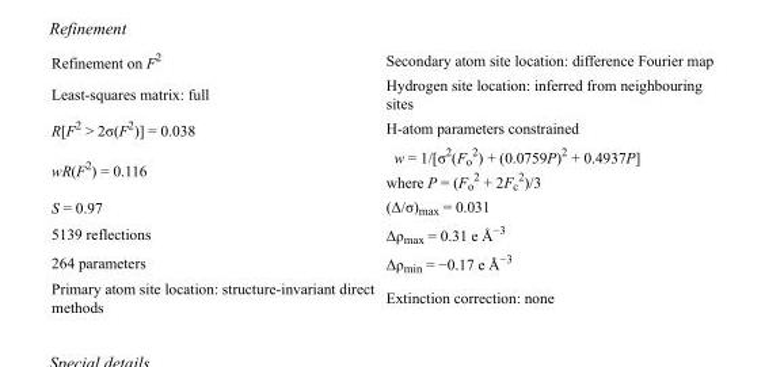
<table><tbody><tr><td>Refinement on F<sup>2</sup></td><td>Secondary atom site location: difference Fourier map</td></tr><tr><td>Least-squares matrix: full</td><td>Hydrogen site location: inferred from neighbouring sites</td></tr><tr><td>R[F<sup>2</sup> &gt; 2σ(F<sup>2</sup>)] = 0.038</td><td>H-atom parameters constrained</td></tr><tr><td>wR(F<sup>2</sup>) = 0.116</td><td>w = 1/[σ<sup>2</sup>(F<sub>o</sub> <sup>2</sup>) + (0.0759P)<sup>2</sup> + 0.4937P] where P = (F<sub>o</sub> <sup>2</sup> + 2F<sub>c</sub> <sup>2</sup>)/3</td></tr><tr><td>S = 0.97</td><td>(Δ/σ)<sub>max</sub> = 0.031</td></tr><tr><td>5139 reflections</td><td>Δρ<sub>max</sub> = 0.31 e Å<sup>−3</sup></td></tr><tr><td>264 parameters</td><td>Δρ<sub>min</sub> = −0.17 e Å<sup>−3</sup></td></tr><tr><td>Primary atom site location: structure-invariant direct methods</td><td>Extinction correction: none</td></tr></tbody></table>